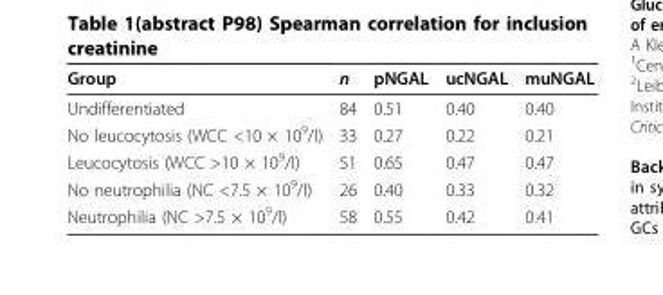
<table><thead><tr><td>Group</td><td>n</td><td>pNGAL</td><td>ucNGAL</td><td>muNGAL</td></tr></thead><tbody><tr><td>Undifferentiated</td><td>84</td><td>0.51</td><td>0.40</td><td>0.40</td></tr><tr><td>No leucocytosis (WCC &lt;10 × 10<sup>9</sup>/l)</td><td>33</td><td>0.27</td><td>0.22</td><td>0.21</td></tr><tr><td>Leucocytosis (WCC &gt;10 × 10<sup>9</sup>/l)</td><td>51</td><td>0.65</td><td>0.47</td><td>0.47</td></tr><tr><td>No neutrophilia (NC &lt;7.5 × 10<sup>9</sup>/l)</td><td>26</td><td>0.40</td><td>0.33</td><td>0.32</td></tr><tr><td>Neutrophilia (NC &gt;7.5 × 10<sup>9</sup>/l)</td><td>58</td><td>0.55</td><td>0.42</td><td>0.41</td></tr></tbody></table>